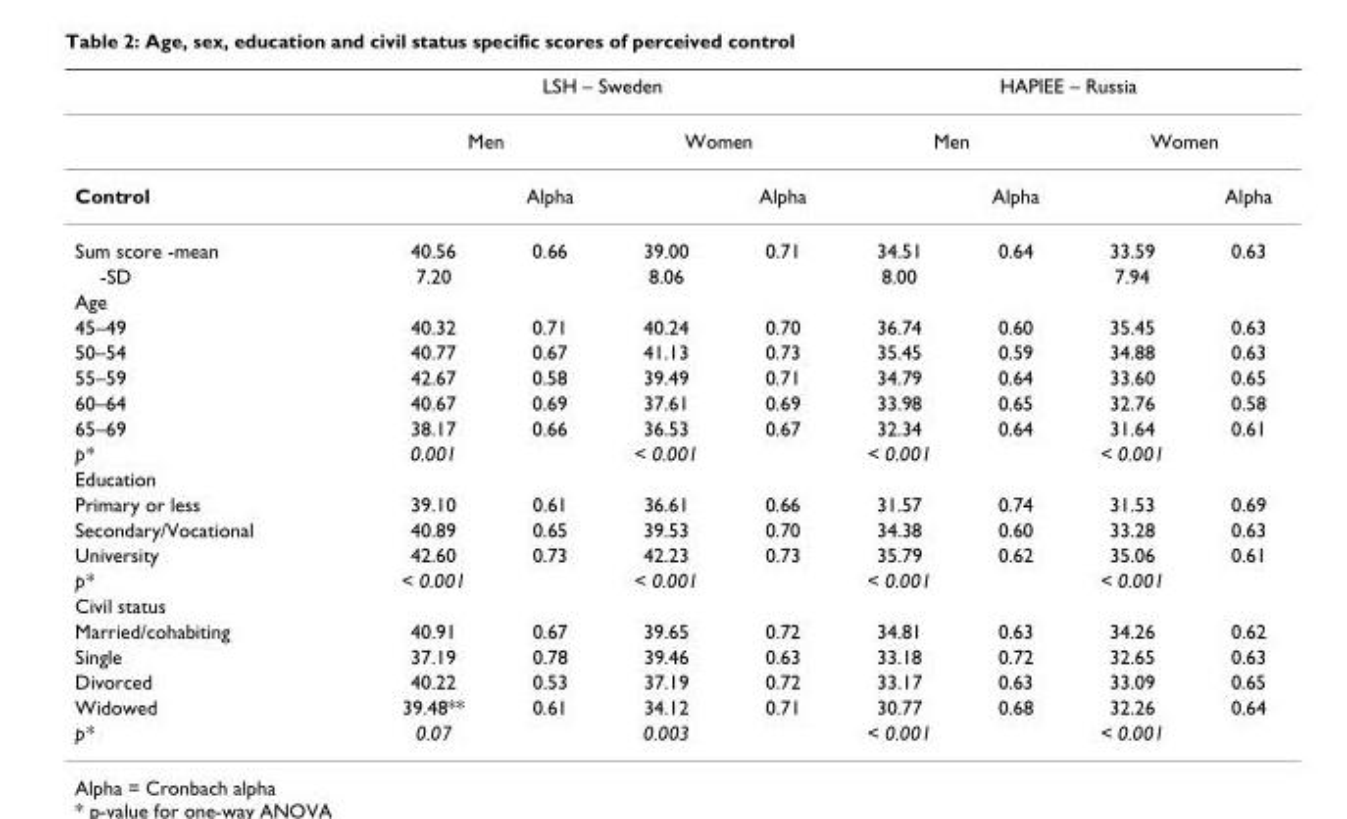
<table><thead><tr><td rowspan="3">Control</td><td colspan="4">LSH – Sweden</td><td colspan="4">HAPIEE – Russia</td></tr><tr><td colspan="2">Men</td><td colspan="2">Women</td><td colspan="2">Men</td><td colspan="2">Women</td></tr><tr><td></td><td>Alpha</td><td></td><td>Alpha</td><td></td><td>Alpha</td><td></td><td>Alpha</td></tr></thead><tbody><tr><td>Sum score -mean</td><td>40.56</td><td>0.66</td><td>39.00</td><td>0.71</td><td>34.51</td><td>0.64</td><td>33.59</td><td>0.63</td></tr><tr><td>-SD</td><td>7.20</td><td></td><td>8.06</td><td></td><td>8.00</td><td></td><td>7.94</td><td></td></tr><tr><td colspan="9">Age</td></tr><tr><td>45–49</td><td>40.32</td><td>0.71</td><td>40.24</td><td>0.70</td><td>36.74</td><td>0.60</td><td>35.45</td><td>0.63</td></tr><tr><td>50–54</td><td>40.77</td><td>0.67</td><td>41.13</td><td>0.73</td><td>35.45</td><td>0.59</td><td>34.88</td><td>0.63</td></tr><tr><td>55–59</td><td>42.67</td><td>0.58</td><td>39.49</td><td>0.71</td><td>34.79</td><td>0.64</td><td>33.60</td><td>0.65</td></tr><tr><td>60–64</td><td>40.67</td><td>0.69</td><td>37.61</td><td>0.69</td><td>33.98</td><td>0.65</td><td>32.76</td><td>0.58</td></tr><tr><td>65–69</td><td>38.17</td><td>0.66</td><td>36.53</td><td>0.67</td><td>32.34</td><td>0.64</td><td>31.64</td><td>0.61</td></tr><tr><td>p*</td><td>0.001</td><td></td><td>&lt; 0.001</td><td></td><td>&lt; 0.001</td><td></td><td>&lt; 0.001</td><td></td></tr><tr><td colspan="9">Education</td></tr><tr><td>Primary or less</td><td>39.10</td><td>0.61</td><td>36.61</td><td>0.66</td><td>31.57</td><td>0.74</td><td>31.53</td><td>0.69</td></tr><tr><td>Secondary/Vocational</td><td>40.89</td><td>0.65</td><td>39.53</td><td>0.70</td><td>34.38</td><td>0.60</td><td>33.28</td><td>0.63</td></tr><tr><td>University</td><td>42.60</td><td>0.73</td><td>42.23</td><td>0.73</td><td>35.79</td><td>0.62</td><td>35.06</td><td>0.61</td></tr><tr><td>p*</td><td>&lt; 0.001</td><td></td><td>&lt; 0.001</td><td></td><td>&lt; 0.001</td><td></td><td>&lt; 0.001</td><td></td></tr><tr><td colspan="9">Civil status</td></tr><tr><td>Married/cohabiting</td><td>40.91</td><td>0.67</td><td>39.65</td><td>0.72</td><td>34.81</td><td>0.63</td><td>34.26</td><td>0.62</td></tr><tr><td>Single</td><td>37.19</td><td>0.78</td><td>39.46</td><td>0.63</td><td>33.18</td><td>0.72</td><td>32.65</td><td>0.63</td></tr><tr><td>Divorced</td><td>40.22</td><td>0.53</td><td>37.19</td><td>0.72</td><td>33.17</td><td>0.63</td><td>33.09</td><td>0.65</td></tr><tr><td>Widowed</td><td>39.48**</td><td>0.61</td><td>34.12</td><td>0.71</td><td>30.77</td><td>0.68</td><td>32.26</td><td>0.64</td></tr><tr><td>p*</td><td>0.07</td><td></td><td>0.003</td><td></td><td>&lt; 0.001</td><td></td><td>&lt; 0.001</td><td></td></tr></tbody></table>